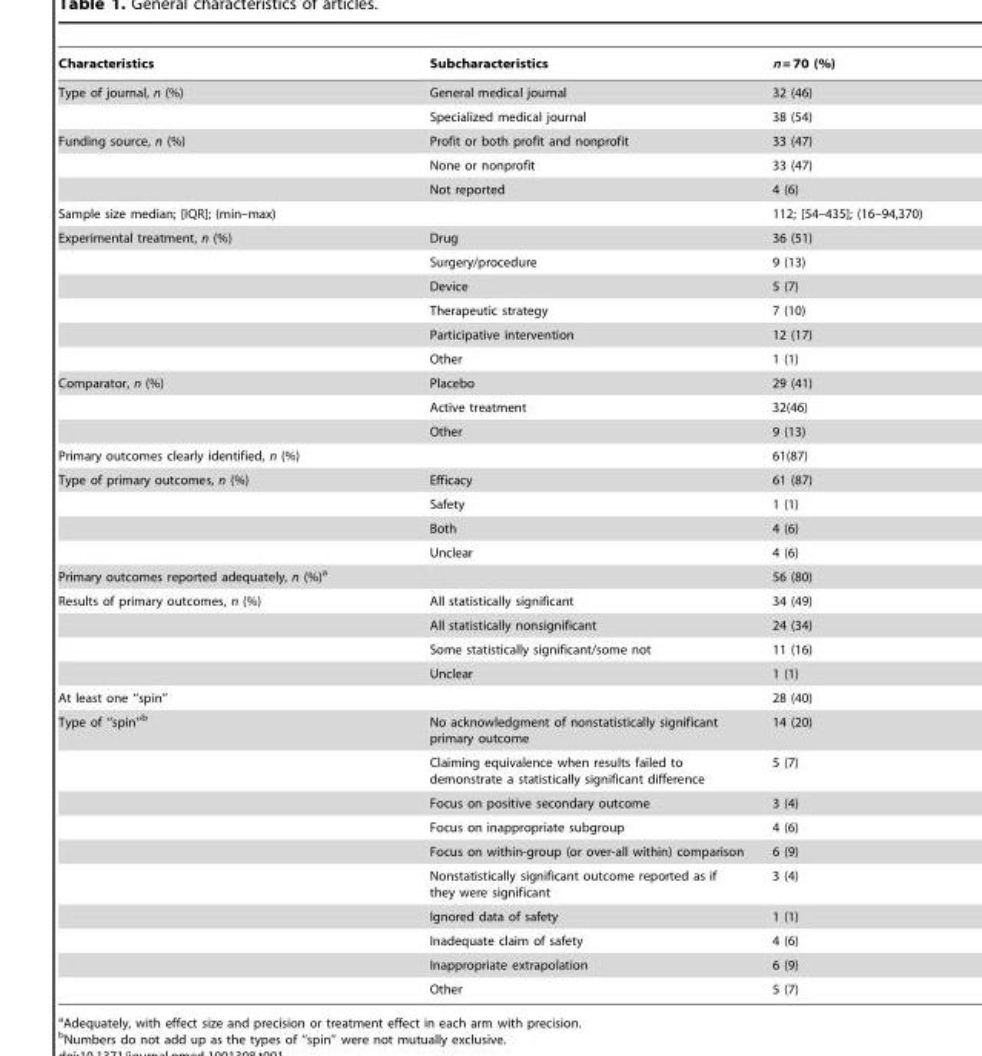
<table><thead><tr><td>Characteristics</td><td>Subcharacteristics</td><td>n = 70 (%)</td></tr></thead><tbody><tr><td rowspan="2">Type of journal, n (%)</td><td>General medical journal</td><td>32 (46)</td></tr><tr><td>Specialized medical journal</td><td>38 (54)</td></tr><tr><td rowspan="3">Funding source, n (%)</td><td>Profit or both profit and nonprofit</td><td>33 (47)</td></tr><tr><td>None or nonprofit</td><td>33 (47)</td></tr><tr><td>Not reported</td><td>4 (6)</td></tr><tr><td>Sample size median; [IQR]; (min–max)</td><td></td><td>112; [54–435]; (16–94,370)</td></tr><tr><td rowspan="6">Experimental treatment, n (%)</td><td>Drug</td><td>36 (51)</td></tr><tr><td>Surgery/procedure</td><td>9 (13)</td></tr><tr><td>Device</td><td>5 (7)</td></tr><tr><td>Therapeutic strategy</td><td>7 (10)</td></tr><tr><td>Participative intervention</td><td>12 (17)</td></tr><tr><td>Other</td><td>1 (1)</td></tr><tr><td rowspan="3">Comparator, n (%)</td><td>Placebo</td><td>29 (41)</td></tr><tr><td>Active treatment</td><td>32(46)</td></tr><tr><td>Other</td><td>9 (13)</td></tr><tr><td>Primary outcomes clearly identified, n (%)</td><td></td><td>61(87)</td></tr><tr><td rowspan="4">Type of primary outcomes, n (%)</td><td>Efficacy</td><td>61 (87)</td></tr><tr><td>Safety</td><td>1 (1)</td></tr><tr><td>Both</td><td>4 (6)</td></tr><tr><td>Unclear</td><td>4 (6)</td></tr><tr><td>Primary outcomes reported adequately, n (%)<sup>a</sup></td><td></td><td>56 (80)</td></tr><tr><td rowspan="4">Results of primary outcomes, n (%)</td><td>All statistically significant</td><td>34 (49)</td></tr><tr><td>All statistically nonsignificant</td><td>24 (34)</td></tr><tr><td>Some statistically significant/some not</td><td>11 (16)</td></tr><tr><td>Unclear</td><td>1 (1)</td></tr><tr><td>At least one ‘‘spin’’</td><td></td><td>28 (40)</td></tr><tr><td rowspan="10">Type of ‘‘spin’’b</td><td>No acknowledgment of nonstatistically significant primary outcome</td><td>14 (20)</td></tr><tr><td>Claiming equivalence when results failed to demonstrate a statistically significant difference</td><td>5 (7)</td></tr><tr><td>Focus on positive secondary outcome</td><td>3 (4)</td></tr><tr><td>Focus on inappropriate subgroup</td><td>4 (6)</td></tr><tr><td>Focus on within-group (or over-all within) comparison</td><td>6 (9)</td></tr><tr><td>Nonstatistically significant outcome reported as if they were significant</td><td>3 (4)</td></tr><tr><td>Ignored data of safety</td><td>1 (1)</td></tr><tr><td>Inadequate claim of safety</td><td>4 (6)</td></tr><tr><td>Inappropriate extrapolation</td><td>6 (9)</td></tr><tr><td>Other</td><td>5 (7)</td></tr></tbody></table>